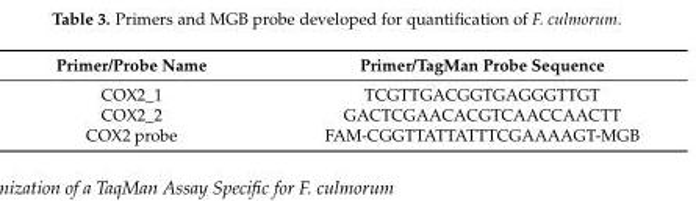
<table><thead><tr><td>Primer/Probe Name</td><td>Primer/TagMan Probe Sequence</td></tr></thead><tbody><tr><td>COX2_1</td><td>TCGTTGACGGTGAGGGTTGT</td></tr><tr><td>COX2_2</td><td>GACTCGAACACGTCAACCAACTT</td></tr><tr><td>COX2 probe</td><td>FAM-CGGTTATTATTTCGAAAAGT-MGB</td></tr></tbody></table>